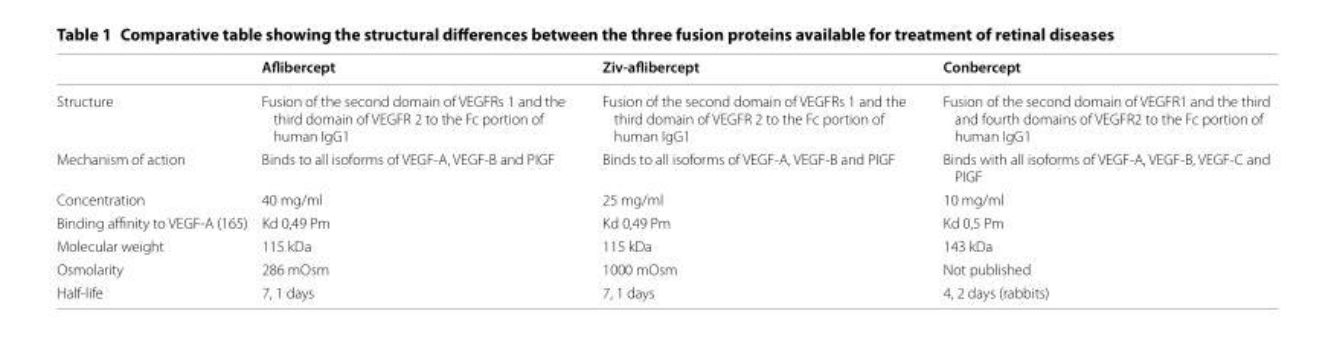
<table><thead><tr><td></td><td>Aflibercept</td><td>Ziv-aflibercept</td><td>Conbercept</td></tr></thead><tbody><tr><td>Structure</td><td>Fusion of the second domain of VEGFRs 1 and the third domain of VEGFR 2 to the Fc portion of human IgG1</td><td>Fusion of the second domain of VEGFRs 1 and the third domain of VEGFR 2 to the Fc portion of human IgG1</td><td>Fusion of the second domain of VEGFR1 and the third and fourth domains of VEGFR2 to the Fc portion of human IgG1</td></tr><tr><td>Mechanism of action</td><td>Binds to all isoforms of VEGF-A, VEGF-B and PIGF</td><td>Binds to all isoforms of VEGF-A, VEGF-B and PIGF</td><td>Binds with all isoforms of VEGF-A, VEGF-B, VEGF-C and PIGF</td></tr><tr><td>Concentration</td><td>40 mg/ml</td><td>25 mg/ml</td><td>10 mg/ml</td></tr><tr><td>Binding affinity to VEGF-A (165)</td><td>Kd 0,49 Pm</td><td>Kd 0,49 Pm</td><td>Kd 0,5 Pm</td></tr><tr><td>Molecular weight</td><td>115 kDa</td><td>115 kDa</td><td>143 kDa</td></tr><tr><td>Osmolarity</td><td>286 mOsm</td><td>1000 mOsm</td><td>Not published</td></tr><tr><td>Half-life</td><td>7, 1 days</td><td>7, 1 days</td><td>4, 2 days (rabbits)</td></tr></tbody></table>